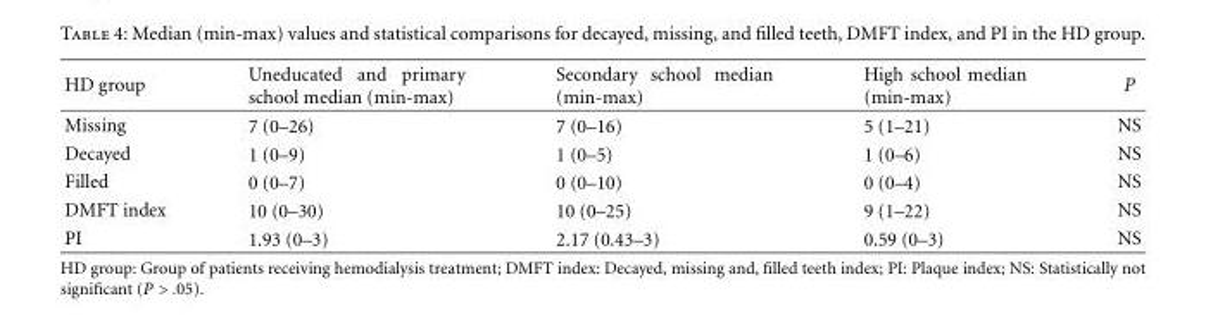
<table><thead><tr><td>HD group</td><td>Uneducated and primary school median (min-max)</td><td>Secondary school median (min-max)</td><td>High school median (min-max)</td><td>P</td></tr></thead><tbody><tr><td>Missing</td><td>7 (0–26)</td><td>7 (0–16)</td><td>5 (1–21)</td><td>NS</td></tr><tr><td>Decayed</td><td>1 (0–9)</td><td>1 (0–5)</td><td>1 (0–6)</td><td>NS</td></tr><tr><td>Filled</td><td>0 (0–7)</td><td>0 (0–10)</td><td>0 (0–4)</td><td>NS</td></tr><tr><td>DMFT index</td><td>10 (0–30)</td><td>10 (0–25)</td><td>9 (1–22)</td><td>NS</td></tr><tr><td>PI</td><td>1.93 (0–3)</td><td>2.17 (0.43–3)</td><td>0.59 (0–3)</td><td>NS</td></tr></tbody></table>